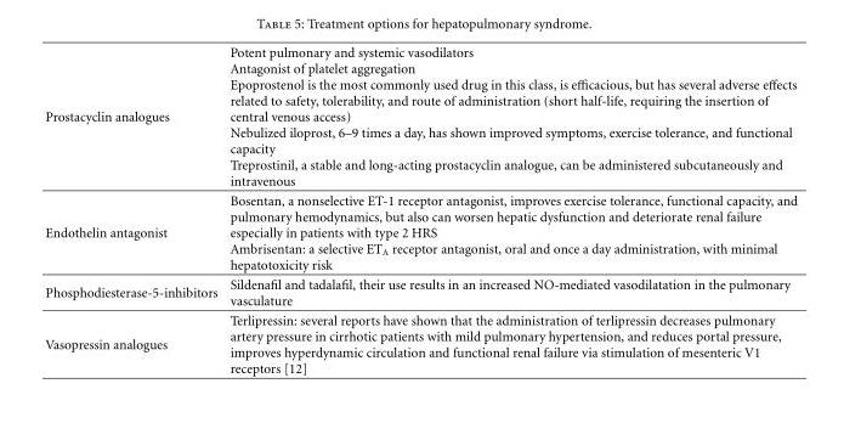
<table><tbody><tr><td>Prostacyclin analogues</td><td>Potent pulmonary and systemic vasodilators Antagonist of platelet aggregation Epoprostenol is the most commonly used drug in this class, is efficacious, but has several adverse effects related to safety, tolerability, and route of administration (short half-life, requiring the insertion of central venous access) Nebulized iloprost, 6–9 times a day, has shown improved symptoms, exercise tolerance, and functional capacity Treprostinil, a stable and long-acting prostacyclin analogue, can be administered subcutaneously and intravenous</td></tr><tr><td>Endothelin antagonist</td><td>Bosentan, a nonselective ET-1 receptor antagonist, improves exercise tolerance, functional capacity, and pulmonary hemodynamics, but also can worsen hepatic dysfunction and deteriorate renal failure especially in patients with type 2 HRS Ambrisentan: a selective ET<sub>A</sub> receptor antagonist, oral and once a day administration, with minimal hepatotoxicity risk</td></tr><tr><td>Phosphodiesterase-5-inhibitors</td><td>Sildenafil and tadalafil, their use results in an increased NO-mediated vasodilatation in the pulmonary vasculature</td></tr><tr><td>Vasopressin analogues</td><td>Terlipressin: several reports have shown that the administration of terlipressin decreases pulmonary artery pressure in cirrhotic patients with mild pulmonary hypertension, and reduces portal pressure, improves hyperdynamic circulation and functional renal failure via stimulation of mesenteric V1 receptors [12]</td></tr></tbody></table>